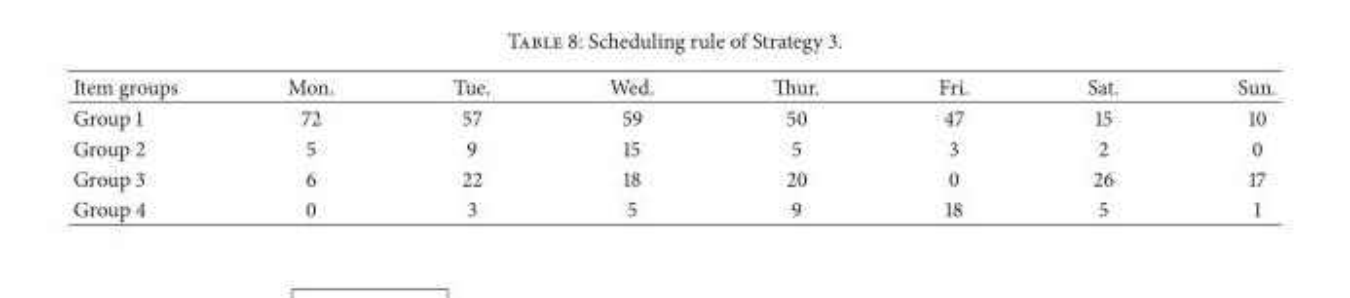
<table><thead><tr><td>Item groups</td><td>Mon.</td><td>Tue.</td><td>Wed.</td><td>Thur.</td><td>Fri.</td><td>Sat.</td><td>Sun.</td></tr></thead><tbody><tr><td>Group 1</td><td>72</td><td>57</td><td>59</td><td>50</td><td>47</td><td>15</td><td>10</td></tr><tr><td>Group 2</td><td>5</td><td>9</td><td>15</td><td>5</td><td>3</td><td>2</td><td>0</td></tr><tr><td>Group 3</td><td>6</td><td>22</td><td>18</td><td>20</td><td>0</td><td>26</td><td>17</td></tr><tr><td>Group 4</td><td>0</td><td>3</td><td>5</td><td>9</td><td>18</td><td>5</td><td>1</td></tr></tbody></table>